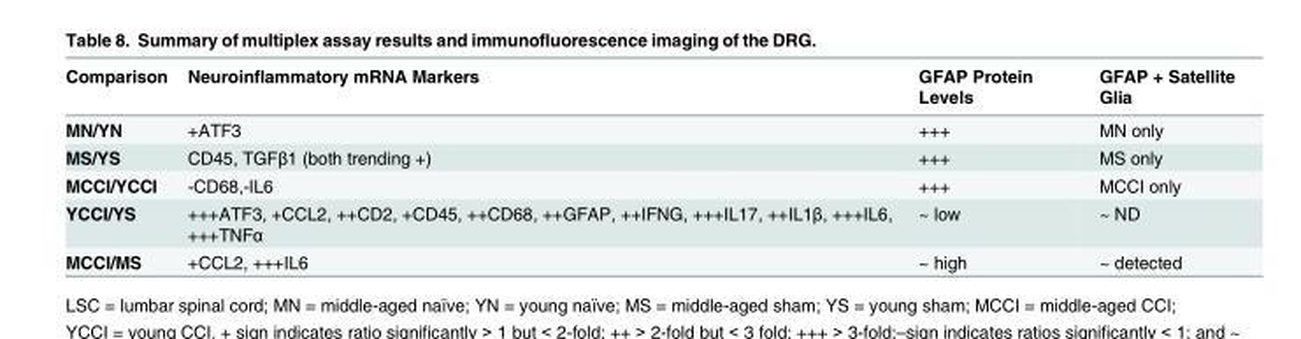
<table><thead><tr><td>Comparison</td><td>Neuroinflammatory mRNA Markers</td><td>GFAP Protein Levels</td><td>GFAP + Satellite Glia</td></tr></thead><tbody><tr><td>MN/YN</td><td>+ATF3</td><td>+++</td><td>MN only</td></tr><tr><td>MS/YS</td><td>CD45, TGFβ1 (both trending +)</td><td>+++</td><td>MS only</td></tr><tr><td>MCCI/YCCI</td><td>-CD68,-IL6</td><td>+++</td><td>MCCI only</td></tr><tr><td>YCCI/YS</td><td>+++ATF3, +CCL2, ++CD2, +CD45, ++CD68, ++GFAP, ++IFNG, +++IL17, ++IL1β, +++IL6, +++TNFα</td><td>~ low</td><td>~ ND</td></tr><tr><td>MCCI/MS</td><td>+CCL2, +++IL6</td><td>~ high</td><td>~ detected</td></tr></tbody></table>